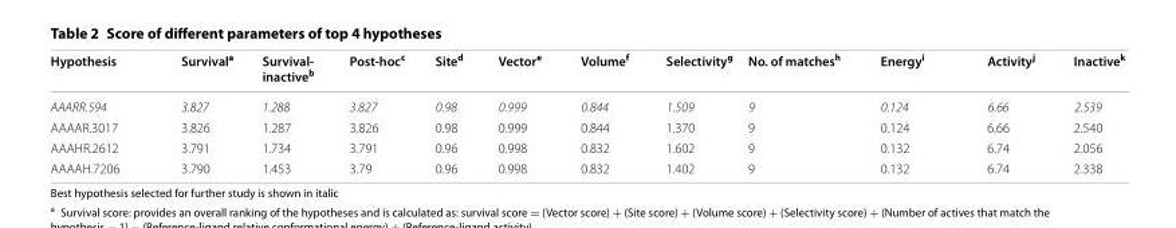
<table><thead><tr><td>Hypothesis</td><td>Survival<sup>a</sup></td><td>Survival‑ inactive<sup>b</sup></td><td>Post‑hoc<sup>c</sup></td><td>Site<sup>d</sup></td><td>Vector<sup>e</sup></td><td>Volume<sup>f</sup></td><td>Selectivity<sup>g</sup></td><td>No. of matches<sup>h</sup></td><td>Energy<sup>i</sup></td><td>Activity<sup>j</sup></td><td>Inactive<sup>k</sup></td></tr></thead><tbody><tr><td>AAARR.594</td><td>3.827</td><td>1.288</td><td>3.827</td><td>0.98</td><td>0.999</td><td>0.844</td><td>1.509</td><td>9</td><td>0.124</td><td>6.66</td><td>2.539</td></tr><tr><td>AAAAR.3017</td><td>3.826</td><td>1.287</td><td>3.826</td><td>0.98</td><td>0.999</td><td>0.844</td><td>1.370</td><td>9</td><td>0.124</td><td>6.66</td><td>2.540</td></tr><tr><td>AAAHR.2612</td><td>3.791</td><td>1.734</td><td>3.791</td><td>0.96</td><td>0.998</td><td>0.832</td><td>1.602</td><td>9</td><td>0.132</td><td>6.74</td><td>2.056</td></tr><tr><td>AAAAH.7206</td><td>3.790</td><td>1.453</td><td>3.79</td><td>0.96</td><td>0.998</td><td>0.832</td><td>1.402</td><td>9</td><td>0.132</td><td>6.74</td><td>2.338</td></tr></tbody></table>